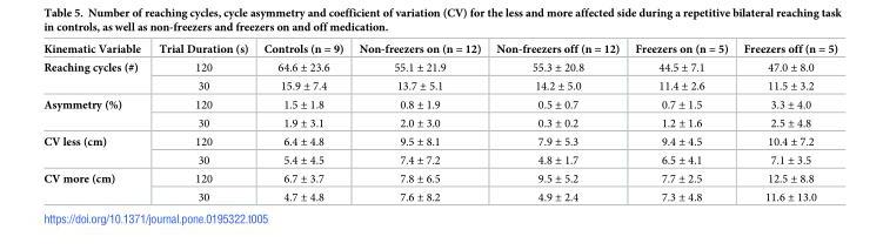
<table><thead><tr><td>Kinematic Variable</td><td>Trial Duration (s)</td><td>Controls (n = 9)</td><td>Non-freezers on (n = 12)</td><td>Non-freezers off (n = 12)</td><td>Freezers on (n = 5)</td><td>Freezers off (n = 5)</td></tr></thead><tbody><tr><td rowspan="2">Reaching cycles (#)</td><td>120</td><td>64.6 ± 23.6</td><td>55.1 ± 21.9</td><td>55.3 ± 20.8</td><td>44.5 ± 7.1</td><td>47.0 ± 8.0</td></tr><tr><td>30</td><td>15.9 ± 7.4</td><td>13.7 ± 5.1</td><td>14.2 ± 5.0</td><td>11.4 ± 2.6</td><td>11.5 ± 3.2</td></tr><tr><td rowspan="2">Asymmetry (%)</td><td>120</td><td>1.5 ± 1.8</td><td>0.8 ± 1.9</td><td>0.5 ± 0.7</td><td>0.7 ± 1.5</td><td>3.3 ± 4.0</td></tr><tr><td>30</td><td>1.9 ± 3.1</td><td>2.0 ± 3.0</td><td>0.3 ± 0.2</td><td>1.2 ± 1.6</td><td>2.5 ± 4.8</td></tr><tr><td rowspan="2">CV less (cm)</td><td>120</td><td>6.4 ± 4.8</td><td>9.5 ± 8.1</td><td>7.9 ± 5.3</td><td>9.4 ± 4.5</td><td>10.4 ± 7.2</td></tr><tr><td>30</td><td>5.4 ± 4.5</td><td>7.4 ± 7.2</td><td>4.8 ± 1.7</td><td>6.5 ± 4.1</td><td>7.1 ± 3.5</td></tr><tr><td rowspan="2">CV more (cm)</td><td>120</td><td>6.7 ± 3.7</td><td>7.8 ± 6.5</td><td>9.5 ± 5.2</td><td>7.7 ± 2.5</td><td>12.5 ± 8.8</td></tr><tr><td>30</td><td>4.7 ± 4.8</td><td>7.6 ± 8.2</td><td>4.9 ± 2.4</td><td>7.3 ± 4.8</td><td>11.6 ± 13.0</td></tr></tbody></table>